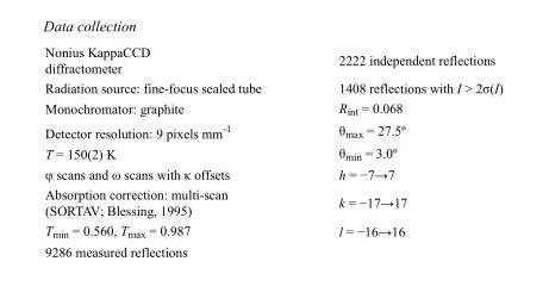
<table><tbody><tr><td>Nonius KappaCCD diffractometer</td><td>2222 independent reflections</td></tr><tr><td>Radiation source: fine-focus sealed tube</td><td>1408 reflections with I &gt; 2σ(I)</td></tr><tr><td>Monochromator: graphite</td><td>R<sub>int</sub> = 0.068</td></tr><tr><td>Detector resolution: 9 pixels mm<sup>-1</sup></td><td>θ<sub>max</sub> = 27.5º</td></tr><tr><td>T = 150(2) K</td><td>θ<sub>min</sub> = 3.0º</td></tr><tr><td>φ scans and ω scans with κ offsets</td><td>h = −7→7</td></tr><tr><td>Absorption correction: multi-scan (SORTAV; Blessing, 1995)</td><td>k = −17→17</td></tr><tr><td>T<sub>min</sub> = 0.560, T<sub>max</sub> = 0.987</td><td>l = −16→16</td></tr><tr><td>9286 measured reflections</td><td></td></tr></tbody></table>